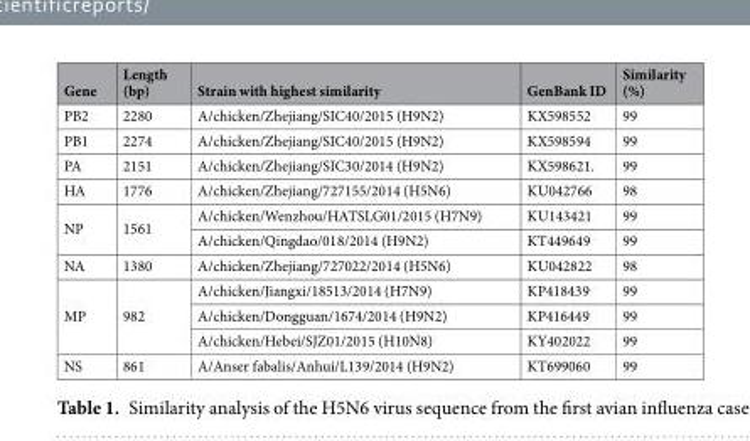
<table><thead><tr><td>Gene</td><td>Length (bp)</td><td>Strain with highest similarity</td><td>GenBank ID</td><td>Similarity (%)</td></tr></thead><tbody><tr><td>PB2</td><td>2280</td><td>A/chicken/Zhejiang/SIC40/2015 (H9N2)</td><td>KX598552</td><td>99</td></tr><tr><td>PB1</td><td>2274</td><td>A/chicken/Zhejiang/SIC40/2015 (H9N2)</td><td>KX598594</td><td>99</td></tr><tr><td>PA</td><td>2151</td><td>A/chicken/Zhejiang/SIC30/2014 (H9N2)</td><td>KX598621.</td><td>99</td></tr><tr><td>HA</td><td>1776</td><td>A/chicken/Zhejiang/727155/2014 (H5N6)</td><td>KU042766</td><td>98</td></tr><tr><td rowspan="2">NP</td><td rowspan="2">1561</td><td>A/chicken/Wenzhou/HATSLG01/2015 (H7N9)</td><td>KU143421</td><td>99</td></tr><tr><td>A/chicken/Qingdao/018/2014 (H9N2)</td><td>KT449649</td><td>99</td></tr><tr><td>NA</td><td>1380</td><td>A/chicken/Zhejiang/727022/2014 (H5N6)</td><td>KU042822</td><td>98</td></tr><tr><td rowspan="3">MP</td><td rowspan="3">982</td><td>A/chicken/Jiangxi/18513/2014 (H7N9)</td><td>KP418439</td><td>99</td></tr><tr><td>A/chicken/Dongguan/1674/2014 (H9N2)</td><td>KP416449</td><td>99</td></tr><tr><td>A/chicken/Hebei/SJZ01/2015 (H10N8)</td><td>KY402022</td><td>99</td></tr><tr><td>NS</td><td>861</td><td>A/Anser fabalis/Anhui/L139/2014 (H9N2)</td><td>KT699060</td><td>99</td></tr></tbody></table>